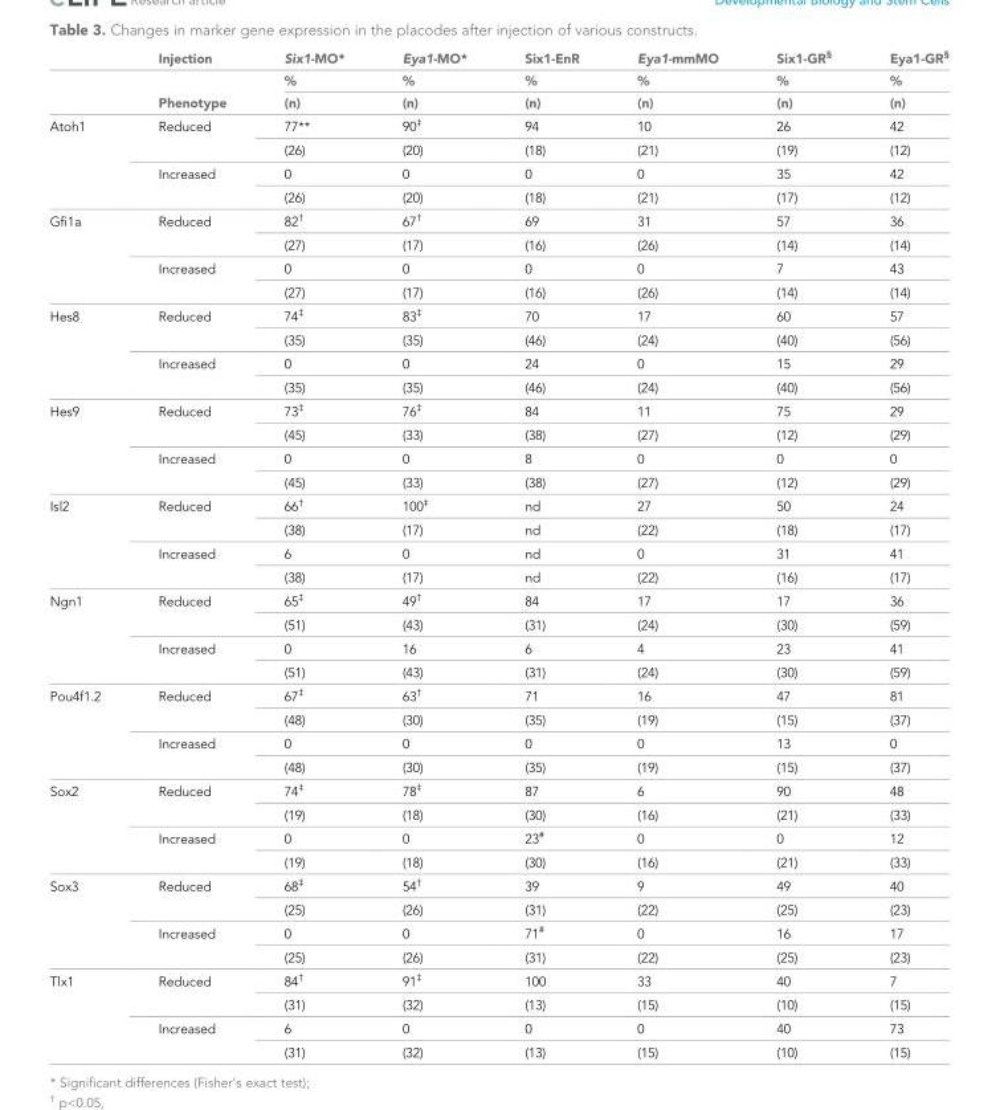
<table><thead><tr><td rowspan="3"></td><td rowspan="3">Injection Phenotype</td><td rowspan="3">Six1-MO* % (n)</td><td rowspan="3">Eya1-MO* % (n)</td><td rowspan="3">Six1-EnR % (n)</td><td rowspan="3">Eya1-mmMO % (n)</td><td rowspan="3">Six1-GR<sup>§</sup> % (n)</td><td rowspan="3">Eya1-GR<sup>§</sup> % (n)</td></tr><tr></tr><tr></tr></thead><tbody><tr><td rowspan="4">Atoh1</td><td rowspan="2">Reduced</td><td>77**</td><td>90<sup>‡</sup></td><td>94</td><td>10</td><td>26</td><td>42</td></tr><tr><td>(26)</td><td>(20)</td><td>(18)</td><td>(21)</td><td>(19)</td><td>(12)</td></tr><tr><td rowspan="2">Increased</td><td>0</td><td>0</td><td>0</td><td>0</td><td>35</td><td>42</td></tr><tr><td>(26)</td><td>(20)</td><td>(18)</td><td>(21)</td><td>(17)</td><td>(12)</td></tr><tr><td rowspan="4">Gfi1a</td><td rowspan="2">Reduced</td><td>82<sup>†</sup></td><td>67<sup>†</sup></td><td>69</td><td>31</td><td>57</td><td>36</td></tr><tr><td>(27)</td><td>(17)</td><td>(16)</td><td>(26)</td><td>(14)</td><td>(14)</td></tr><tr><td rowspan="2">Increased</td><td>0</td><td>0</td><td>0</td><td>0</td><td>7</td><td>43</td></tr><tr><td>(27)</td><td>(17)</td><td>(16)</td><td>(26)</td><td>(14)</td><td>(14)</td></tr><tr><td rowspan="4">Hes8</td><td rowspan="2">Reduced</td><td>74<sup>‡</sup></td><td>83<sup>‡</sup></td><td>70</td><td>17</td><td>60</td><td>57</td></tr><tr><td>(35)</td><td>(35)</td><td>(46)</td><td>(24)</td><td>(40)</td><td>(56)</td></tr><tr><td rowspan="2">Increased</td><td>0</td><td>0</td><td>24</td><td>0</td><td>15</td><td>29</td></tr><tr><td>(35)</td><td>(35)</td><td>(46)</td><td>(24)</td><td>(40)</td><td>(56)</td></tr><tr><td rowspan="4">Hes9</td><td rowspan="2">Reduced</td><td>73<sup>‡</sup></td><td>76<sup>‡</sup></td><td>84</td><td>11</td><td>75</td><td>29</td></tr><tr><td>(45)</td><td>(33)</td><td>(38)</td><td>(27)</td><td>(12)</td><td>(29)</td></tr><tr><td rowspan="2">Increased</td><td>0</td><td>0</td><td>8</td><td>0</td><td>0</td><td>0</td></tr><tr><td>(45)</td><td>(33)</td><td>(38)</td><td>(27)</td><td>(12)</td><td>(29)</td></tr><tr><td rowspan="4">Isl2</td><td rowspan="2">Reduced</td><td>66<sup>†</sup></td><td>100<sup>‡</sup></td><td>nd</td><td>27</td><td>50</td><td>24</td></tr><tr><td>(38)</td><td>(17)</td><td>nd</td><td>(22)</td><td>(18)</td><td>(17)</td></tr><tr><td rowspan="2">Increased</td><td>6</td><td>0</td><td>nd</td><td>0</td><td>31</td><td>41</td></tr><tr><td>(38)</td><td>(17)</td><td>nd</td><td>(22)</td><td>(16)</td><td>(17)</td></tr><tr><td rowspan="4">Ngn1</td><td rowspan="2">Reduced</td><td>65<sup>‡</sup></td><td>49<sup>†</sup></td><td>84</td><td>17</td><td>17</td><td>36</td></tr><tr><td>(51)</td><td>(43)</td><td>(31)</td><td>(24)</td><td>(30)</td><td>(59)</td></tr><tr><td rowspan="2">Increased</td><td>0</td><td>16</td><td>6</td><td>4</td><td>23</td><td>41</td></tr><tr><td>(51)</td><td>(43)</td><td>(31)</td><td>(24)</td><td>(30)</td><td>(59)</td></tr><tr><td rowspan="4">Pou4f1.2</td><td rowspan="2">Reduced</td><td>67<sup>‡</sup></td><td>63<sup>†</sup></td><td>71</td><td>16</td><td>47</td><td>81</td></tr><tr><td>(48)</td><td>(30)</td><td>(35)</td><td>(19)</td><td>(15)</td><td>(37)</td></tr><tr><td rowspan="2">Increased</td><td>0</td><td>0</td><td>0</td><td>0</td><td>13</td><td>0</td></tr><tr><td>(48)</td><td>(30)</td><td>(35)</td><td>(19)</td><td>(15)</td><td>(37)</td></tr><tr><td rowspan="4">Sox2</td><td rowspan="2">Reduced</td><td>74<sup>‡</sup></td><td>78<sup>‡</sup></td><td>87</td><td>6</td><td>90</td><td>48</td></tr><tr><td>(19)</td><td>(18)</td><td>(30)</td><td>(16)</td><td>(21)</td><td>(33)</td></tr><tr><td rowspan="2">Increased</td><td>0</td><td>0</td><td>23<sup>#</sup></td><td>0</td><td>0</td><td>12</td></tr><tr><td>(19)</td><td>(18)</td><td>(30)</td><td>(16)</td><td>(21)</td><td>(33)</td></tr><tr><td rowspan="4">Sox3</td><td rowspan="2">Reduced</td><td>68<sup>‡</sup></td><td>54<sup>†</sup></td><td>39</td><td>9</td><td>49</td><td>40</td></tr><tr><td>(25)</td><td>(26)</td><td>(31)</td><td>(22)</td><td>(25)</td><td>(23)</td></tr><tr><td rowspan="2">Increased</td><td>0</td><td>0</td><td>71<sup>#</sup></td><td>0</td><td>16</td><td>17</td></tr><tr><td>(25)</td><td>(26)</td><td>(31)</td><td>(22)</td><td>(25)</td><td>(23)</td></tr><tr><td rowspan="4">Tlx1</td><td rowspan="2">Reduced</td><td>84<sup>†</sup></td><td>91<sup>‡</sup></td><td>100</td><td>33</td><td>40</td><td>7</td></tr><tr><td>(31)</td><td>(32)</td><td>(13)</td><td>(15)</td><td>(10)</td><td>(15)</td></tr><tr><td rowspan="2">Increased</td><td>6</td><td>0</td><td>0</td><td>0</td><td>40</td><td>73</td></tr><tr><td>(31)</td><td>(32)</td><td>(13)</td><td>(15)</td><td>(10)</td><td>(15)</td></tr></tbody></table>